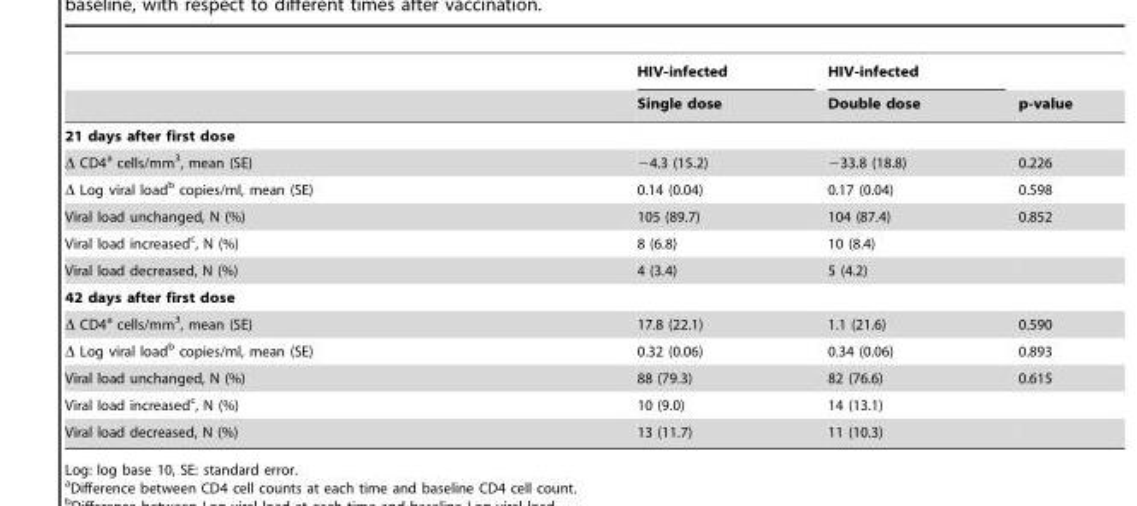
<table><thead><tr><td rowspan="2"></td><td rowspan="2">HIV-infected Single dose</td><td rowspan="2">HIV-infected Double dose</td><td rowspan="2">p-value</td></tr><tr></tr></thead><tbody><tr><td colspan="4">21 days after first dose</td></tr><tr><td>Δ CD4<sup>a</sup> cells/mm<sup>3</sup>, mean (SE)</td><td>−4.3 (15.2)</td><td>−33.8 (18.8)</td><td>0.226</td></tr><tr><td>Δ Log viral load<sup>b</sup> copies/ml, mean (SE)</td><td>0.14 (0.04)</td><td>0.17 (0.04)</td><td>0.598</td></tr><tr><td>Viral load unchanged, N (%)</td><td>105 (89.7)</td><td>104 (87.4)</td><td>0.852</td></tr><tr><td>Viral load increased<sup>c</sup>, N (%)</td><td>8 (6.8)</td><td>10 (8.4)</td><td></td></tr><tr><td>Viral load decreased, N (%)</td><td>4 (3.4)</td><td>5 (4.2)</td><td></td></tr><tr><td colspan="4">42 days after first dose</td></tr><tr><td>Δ CD4<sup>a</sup> cells/mm<sup>3</sup>, mean (SE)</td><td>17.8 (22.1)</td><td>1.1 (21.6)</td><td>0.590</td></tr><tr><td>Δ Log viral load<sup>b</sup> copies/ml, mean (SE)</td><td>0.32 (0.06)</td><td>0.34 (0.06)</td><td>0.893</td></tr><tr><td>Viral load unchanged, N (%)</td><td>88 (79.3)</td><td>82 (76.6)</td><td>0.615</td></tr><tr><td>Viral load increased<sup>c</sup>, N (%)</td><td>10 (9.0)</td><td>14 (13.1)</td><td></td></tr><tr><td>Viral load decreased, N (%)</td><td>13 (11.7)</td><td>11 (10.3)</td><td></td></tr></tbody></table>